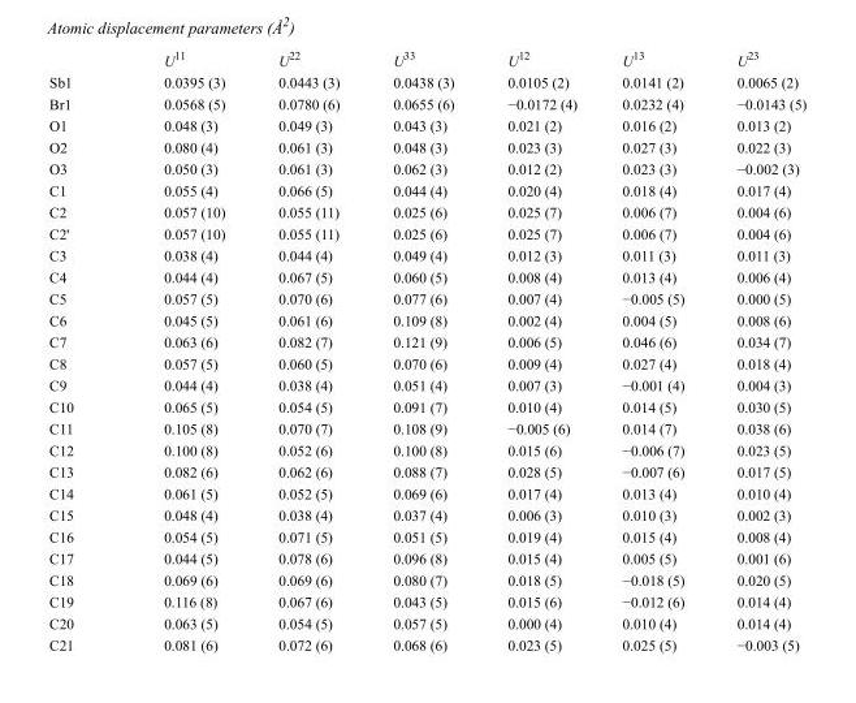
<table><thead><tr><td></td><td>U<sup>11</sup></td><td>U<sup>22</sup></td><td>U<sup>33</sup></td><td>U<sup>12</sup></td><td>U<sup>13</sup></td><td>U<sup>23</sup></td></tr></thead><tbody><tr><td>Sb1</td><td>0.0395 (3)</td><td>0.0443 (3)</td><td>0.0438 (3)</td><td>0.0105 (2)</td><td>0.0141 (2)</td><td>0.0065 (2)</td></tr><tr><td>Br1</td><td>0.0568 (5)</td><td>0.0780 (6)</td><td>0.0655 (6)</td><td>−0.0172 (4)</td><td>0.0232 (4)</td><td>−0.0143 (5)</td></tr><tr><td>O1</td><td>0.048 (3)</td><td>0.049 (3)</td><td>0.043 (3)</td><td>0.021 (2)</td><td>0.016 (2)</td><td>0.013 (2)</td></tr><tr><td>O2</td><td>0.080 (4)</td><td>0.061 (3)</td><td>0.048 (3)</td><td>0.023 (3)</td><td>0.027 (3)</td><td>0.022 (3)</td></tr><tr><td>O3</td><td>0.050 (3)</td><td>0.061 (3)</td><td>0.062 (3)</td><td>0.012 (2)</td><td>0.023 (3)</td><td>−0.002 (3)</td></tr><tr><td>C1</td><td>0.055 (4)</td><td>0.066 (5)</td><td>0.044 (4)</td><td>0.020 (4)</td><td>0.018 (4)</td><td>0.017 (4)</td></tr><tr><td>C2</td><td>0.057 (10)</td><td>0.055 (11)</td><td>0.025 (6)</td><td>0.025 (7)</td><td>0.006 (7)</td><td>0.004 (6)</td></tr><tr><td>C2&#x27;</td><td>0.057 (10)</td><td>0.055 (11)</td><td>0.025 (6)</td><td>0.025 (7)</td><td>0.006 (7)</td><td>0.004 (6)</td></tr><tr><td>C3</td><td>0.038 (4)</td><td>0.044 (4)</td><td>0.049 (4)</td><td>0.012 (3)</td><td>0.011 (3)</td><td>0.011 (3)</td></tr><tr><td>C4</td><td>0.044 (4)</td><td>0.067 (5)</td><td>0.060 (5)</td><td>0.008 (4)</td><td>0.013 (4)</td><td>0.006 (4)</td></tr><tr><td>C5</td><td>0.057 (5)</td><td>0.070 (6)</td><td>0.077 (6)</td><td>0.007 (4)</td><td>−0.005 (5)</td><td>0.000 (5)</td></tr><tr><td>C6</td><td>0.045 (5)</td><td>0.061 (6)</td><td>0.109 (8)</td><td>0.002 (4)</td><td>0.004 (5)</td><td>0.008 (6)</td></tr><tr><td>C7</td><td>0.063 (6)</td><td>0.082 (7)</td><td>0.121 (9)</td><td>0.006 (5)</td><td>0.046 (6)</td><td>0.034 (7)</td></tr><tr><td>C8</td><td>0.057 (5)</td><td>0.060 (5)</td><td>0.070 (6)</td><td>0.009 (4)</td><td>0.027 (4)</td><td>0.018 (4)</td></tr><tr><td>C9</td><td>0.044 (4)</td><td>0.038 (4)</td><td>0.051 (4)</td><td>0.007 (3)</td><td>−0.001 (4)</td><td>0.004 (3)</td></tr><tr><td>C10</td><td>0.065 (5)</td><td>0.054 (5)</td><td>0.091 (7)</td><td>0.010 (4)</td><td>0.014 (5)</td><td>0.030 (5)</td></tr><tr><td>C11</td><td>0.105 (8)</td><td>0.070 (7)</td><td>0.108 (9)</td><td>−0.005 (6)</td><td>0.014 (7)</td><td>0.038 (6)</td></tr><tr><td>C12</td><td>0.100 (8)</td><td>0.052 (6)</td><td>0.100 (8)</td><td>0.015 (6)</td><td>−0.006 (7)</td><td>0.023 (5)</td></tr><tr><td>C13</td><td>0.082 (6)</td><td>0.062 (6)</td><td>0.088 (7)</td><td>0.028 (5)</td><td>−0.007 (6)</td><td>0.017 (5)</td></tr><tr><td>C14</td><td>0.061 (5)</td><td>0.052 (5)</td><td>0.069 (6)</td><td>0.017 (4)</td><td>0.013 (4)</td><td>0.010 (4)</td></tr><tr><td>C15</td><td>0.048 (4)</td><td>0.038 (4)</td><td>0.037 (4)</td><td>0.006 (3)</td><td>0.010 (3)</td><td>0.002 (3)</td></tr><tr><td>C16</td><td>0.054 (5)</td><td>0.071 (5)</td><td>0.051 (5)</td><td>0.019 (4)</td><td>0.015 (4)</td><td>0.008 (4)</td></tr><tr><td>C17</td><td>0.044 (5)</td><td>0.078 (6)</td><td>0.096 (8)</td><td>0.015 (4)</td><td>0.005 (5)</td><td>0.001 (6)</td></tr><tr><td>C18</td><td>0.069 (6)</td><td>0.069 (6)</td><td>0.080 (7)</td><td>0.018 (5)</td><td>−0.018 (5)</td><td>0.020 (5)</td></tr><tr><td>C19</td><td>0.116 (8)</td><td>0.067 (6)</td><td>0.043 (5)</td><td>0.015 (6)</td><td>−0.012 (6)</td><td>0.014 (4)</td></tr><tr><td>C20</td><td>0.063 (5)</td><td>0.054 (5)</td><td>0.057 (5)</td><td>0.000 (4)</td><td>0.010 (4)</td><td>0.014 (4)</td></tr><tr><td>C21</td><td>0.081 (6)</td><td>0.072 (6)</td><td>0.068 (6)</td><td>0.023 (5)</td><td>0.025 (5)</td><td>−0.003 (5)</td></tr></tbody></table>